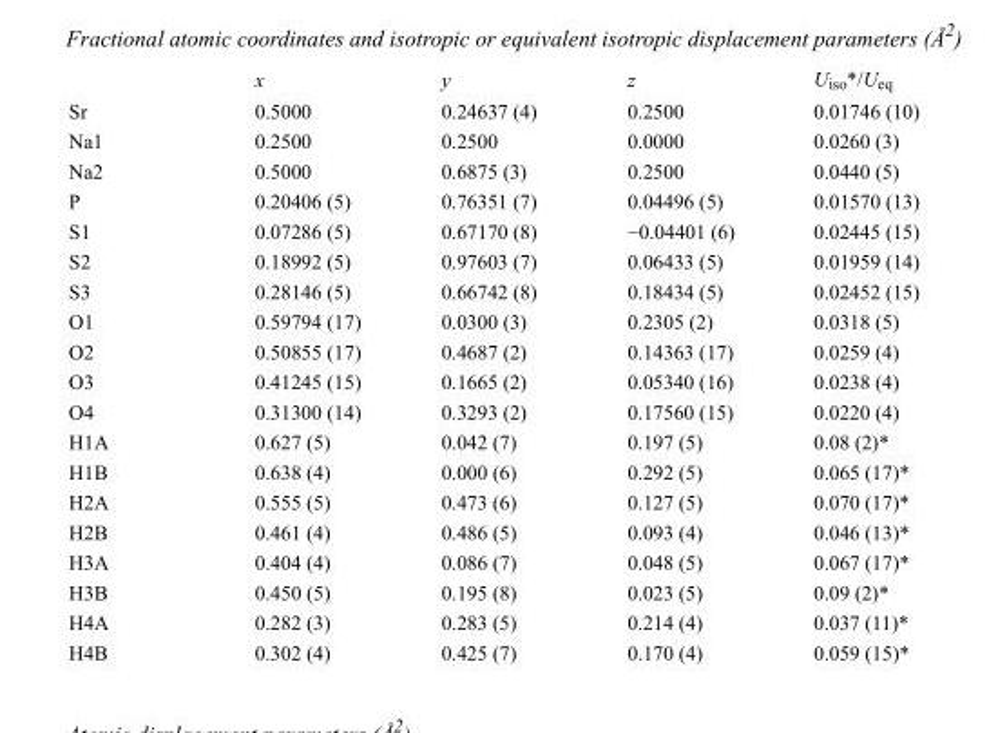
<table><thead><tr><td></td><td>x</td><td>y</td><td>z</td><td>U<sub>iso</sub>*/U<sub>eq</sub></td></tr></thead><tbody><tr><td>Sr</td><td>0.5000</td><td>0.24637 (4)</td><td>0.2500</td><td>0.01746 (10)</td></tr><tr><td>Na1</td><td>0.2500</td><td>0.2500</td><td>0.0000</td><td>0.0260 (3)</td></tr><tr><td>Na2</td><td>0.5000</td><td>0.6875 (3)</td><td>0.2500</td><td>0.0440 (5)</td></tr><tr><td>P</td><td>0.20406 (5)</td><td>0.76351 (7)</td><td>0.04496 (5)</td><td>0.01570 (13)</td></tr><tr><td>S1</td><td>0.07286 (5)</td><td>0.67170 (8)</td><td>−0.04401 (6)</td><td>0.02445 (15)</td></tr><tr><td>S2</td><td>0.18992 (5)</td><td>0.97603 (7)</td><td>0.06433 (5)</td><td>0.01959 (14)</td></tr><tr><td>S3</td><td>0.28146 (5)</td><td>0.66742 (8)</td><td>0.18434 (5)</td><td>0.02452 (15)</td></tr><tr><td>O1</td><td>0.59794 (17)</td><td>0.0300 (3)</td><td>0.2305 (2)</td><td>0.0318 (5)</td></tr><tr><td>O2</td><td>0.50855 (17)</td><td>0.4687 (2)</td><td>0.14363 (17)</td><td>0.0259 (4)</td></tr><tr><td>O3</td><td>0.41245 (15)</td><td>0.1665 (2)</td><td>0.05340 (16)</td><td>0.0238 (4)</td></tr><tr><td>O4</td><td>0.31300 (14)</td><td>0.3293 (2)</td><td>0.17560 (15)</td><td>0.0220 (4)</td></tr><tr><td>H1A</td><td>0.627 (5)</td><td>0.042 (7)</td><td>0.197 (5)</td><td>0.08 (2)*</td></tr><tr><td>H1B</td><td>0.638 (4)</td><td>0.000 (6)</td><td>0.292 (5)</td><td>0.065 (17)*</td></tr><tr><td>H2A</td><td>0.555 (5)</td><td>0.473 (6)</td><td>0.127 (5)</td><td>0.070 (17)*</td></tr><tr><td>H2B</td><td>0.461 (4)</td><td>0.486 (5)</td><td>0.093 (4)</td><td>0.046 (13)*</td></tr><tr><td>H3A</td><td>0.404 (4)</td><td>0.086 (7)</td><td>0.048 (5)</td><td>0.067 (17)*</td></tr><tr><td>H3B</td><td>0.450 (5)</td><td>0.195 (8)</td><td>0.023 (5)</td><td>0.09 (2)*</td></tr><tr><td>H4A</td><td>0.282 (3)</td><td>0.283 (5)</td><td>0.214 (4)</td><td>0.037 (11)*</td></tr><tr><td>H4B</td><td>0.302 (4)</td><td>0.425 (7)</td><td>0.170 (4)</td><td>0.059 (15)*</td></tr></tbody></table>